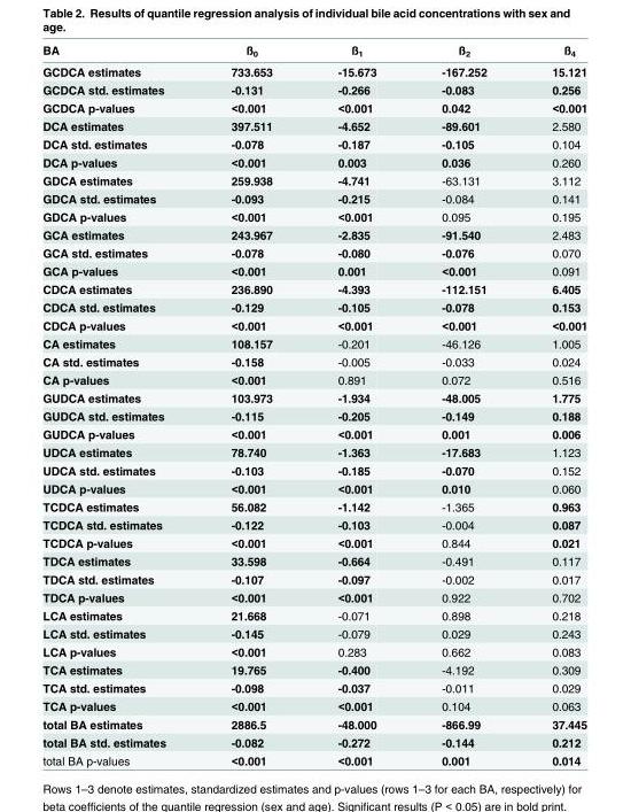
<table><thead><tr><td>BA</td><td>ß<sub>0</sub></td><td>ß<sub>1</sub></td><td>ß<sub>2</sub></td><td>ß<sub>4</sub></td></tr></thead><tbody><tr><td>GCDCA estimates</td><td>733.653</td><td>-15.673</td><td>-167.252</td><td>15.121</td></tr><tr><td>GCDCA std. estimates</td><td>-0.131</td><td>-0.266</td><td>-0.083</td><td>0.256</td></tr><tr><td>GCDCA p-values</td><td>&lt;0.001</td><td>&lt;0.001</td><td>0.042</td><td>&lt;0.001</td></tr><tr><td>DCA estimates</td><td>397.511</td><td>-4.652</td><td>-89.601</td><td>2.580</td></tr><tr><td>DCA std. estimates</td><td>-0.078</td><td>-0.187</td><td>-0.105</td><td>0.104</td></tr><tr><td>DCA p-values</td><td>&lt;0.001</td><td>0.003</td><td>0.036</td><td>0.260</td></tr><tr><td>GDCA estimates</td><td>259.938</td><td>-4.741</td><td>-63.131</td><td>3.112</td></tr><tr><td>GDCA std. estimates</td><td>-0.093</td><td>-0.215</td><td>-0.084</td><td>0.141</td></tr><tr><td>GDCA p-values</td><td>&lt;0.001</td><td>&lt;0.001</td><td>0.095</td><td>0.195</td></tr><tr><td>GCA estimates</td><td>243.967</td><td>-2.835</td><td>-91.540</td><td>2.483</td></tr><tr><td>GCA std. estimates</td><td>-0.078</td><td>-0.080</td><td>-0.076</td><td>0.070</td></tr><tr><td>GCA p-values</td><td>&lt;0.001</td><td>0.001</td><td>&lt;0.001</td><td>0.091</td></tr><tr><td>CDCA estimates</td><td>236.890</td><td>-4.393</td><td>-112.151</td><td>6.405</td></tr><tr><td>CDCA std. estimates</td><td>-0.129</td><td>-0.105</td><td>-0.078</td><td>0.153</td></tr><tr><td>CDCA p-values</td><td>&lt;0.001</td><td>&lt;0.001</td><td>&lt;0.001</td><td>&lt;0.001</td></tr><tr><td>CA estimates</td><td>108.157</td><td>-0.201</td><td>-46.126</td><td>1.005</td></tr><tr><td>CA std. estimates</td><td>-0.158</td><td>-0.005</td><td>-0.033</td><td>0.024</td></tr><tr><td>CA p-values</td><td>&lt;0.001</td><td>0.891</td><td>0.072</td><td>0.516</td></tr><tr><td>GUDCA estimates</td><td>103.973</td><td>-1.934</td><td>-48.005</td><td>1.775</td></tr><tr><td>GUDCA std. estimates</td><td>-0.115</td><td>-0.205</td><td>-0.149</td><td>0.188</td></tr><tr><td>GUDCA p-values</td><td>&lt;0.001</td><td>&lt;0.001</td><td>0.001</td><td>0.006</td></tr><tr><td>UDCA estimates</td><td>78.740</td><td>-1.363</td><td>-17.683</td><td>1.123</td></tr><tr><td>UDCA std. estimates</td><td>-0.103</td><td>-0.185</td><td>-0.070</td><td>0.152</td></tr><tr><td>UDCA p-values</td><td>&lt;0.001</td><td>&lt;0.001</td><td>0.010</td><td>0.060</td></tr><tr><td>TCDCA estimates</td><td>56.082</td><td>-1.142</td><td>-1.365</td><td>0.963</td></tr><tr><td>TCDCA std. estimates</td><td>-0.122</td><td>-0.103</td><td>-0.004</td><td>0.087</td></tr><tr><td>TCDCA p-values</td><td>&lt;0.001</td><td>&lt;0.001</td><td>0.844</td><td>0.021</td></tr><tr><td>TDCA estimates</td><td>33.598</td><td>-0.664</td><td>-0.491</td><td>0.117</td></tr><tr><td>TDCA std. estimates</td><td>-0.107</td><td>-0.097</td><td>-0.002</td><td>0.017</td></tr><tr><td>TDCA p-values</td><td>&lt;0.001</td><td>&lt;0.001</td><td>0.922</td><td>0.702</td></tr><tr><td>LCA estimates</td><td>21.668</td><td>-0.071</td><td>0.898</td><td>0.218</td></tr><tr><td>LCA std. estimates</td><td>-0.145</td><td>-0.079</td><td>0.029</td><td>0.243</td></tr><tr><td>LCA p-values</td><td>&lt;0.001</td><td>0.283</td><td>0.662</td><td>0.083</td></tr><tr><td>TCA estimates</td><td>19.765</td><td>-0.400</td><td>-4.192</td><td>0.309</td></tr><tr><td>TCA std. estimates</td><td>-0.098</td><td>-0.037</td><td>-0.011</td><td>0.029</td></tr><tr><td>TCA p-values</td><td>&lt;0.001</td><td>&lt;0.001</td><td>0.104</td><td>0.063</td></tr><tr><td>total BA estimates</td><td>2886.5</td><td>-48.000</td><td>-866.99</td><td>37.445</td></tr><tr><td>total BA std. estimates</td><td>-0.082</td><td>-0.272</td><td>-0.144</td><td>0.212</td></tr><tr><td>total BA p-values</td><td>&lt;0.001</td><td>&lt;0.001</td><td>0.001</td><td>0.014</td></tr></tbody></table>